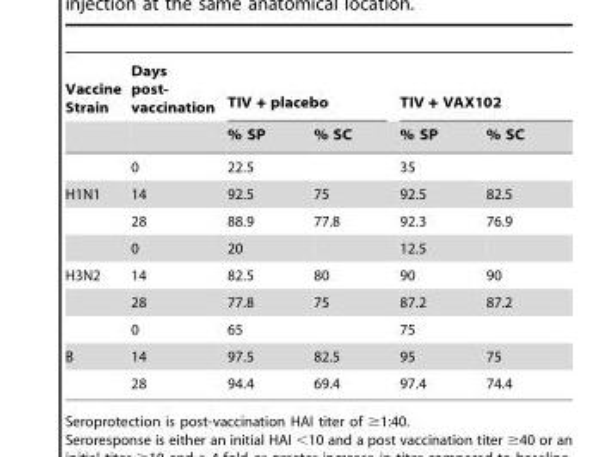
<table><thead><tr><td rowspan="2">Vaccine Strain</td><td rowspan="2">Days post- vaccination</td><td colspan="2">TIV + placebo</td><td colspan="2">TIV + VAX102</td></tr><tr><td>% SP</td><td>% SC</td><td>% SP</td><td>% SC</td></tr></thead><tbody><tr><td></td><td>0</td><td>22.5</td><td></td><td>35</td><td></td></tr><tr><td rowspan="3">H1N1</td><td>14</td><td>92.5</td><td>75</td><td>92.5</td><td>82.5</td></tr><tr><td>28</td><td>88.9</td><td>77.8</td><td>92.3</td><td>76.9</td></tr><tr><td>0</td><td>20</td><td></td><td>12.5</td><td></td></tr><tr><td rowspan="3">H3N2</td><td>14</td><td>82.5</td><td>80</td><td>90</td><td>90</td></tr><tr><td>28</td><td>77.8</td><td>75</td><td>87.2</td><td>87.2</td></tr><tr><td>0</td><td>65</td><td></td><td>75</td><td></td></tr><tr><td rowspan="2">B</td><td>14</td><td>97.5</td><td>82.5</td><td>95</td><td>75</td></tr><tr><td>28</td><td>94.4</td><td>69.4</td><td>97.4</td><td>74.4</td></tr></tbody></table>